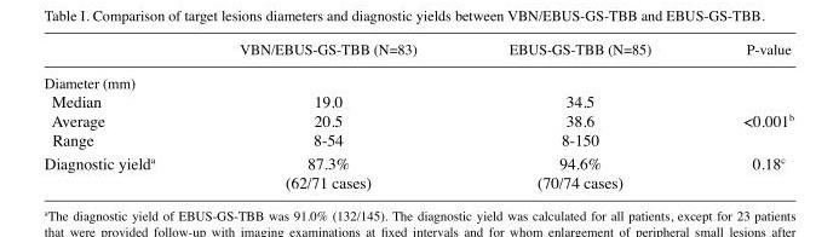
<table><thead><tr><td></td><td>VBN/EBUS-GS-TBB (N=83)</td><td>EBUS-GS-TBB (N=85)</td><td>P-value</td></tr></thead><tbody><tr><td colspan="4">Diameter (mm)</td></tr><tr><td>median</td><td>19.0</td><td>34.5</td><td></td></tr><tr><td>Average</td><td>20.5</td><td>38.6</td><td>&lt;0.001<sup>b</sup></td></tr><tr><td>Range</td><td>8-54</td><td>8-150</td><td></td></tr><tr><td>Diagnostic yield<sup>a</sup></td><td>87.3% (62/71 cases)</td><td>94.6% (70/74 cases)</td><td>0.18<sup>c</sup></td></tr></tbody></table>